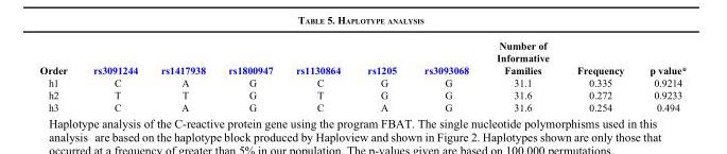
<table><thead><tr><td>Order</td><td>rs3091244</td><td>rs1417938</td><td>rs1800947</td><td>rs1130864</td><td>rs1205</td><td>rs3093068</td><td>Number of Informative Families</td><td>Frequency</td><td>p value*</td></tr></thead><tbody><tr><td>h1</td><td>C</td><td>A</td><td>G</td><td>C</td><td>G</td><td>G</td><td>31.1</td><td>0.335</td><td>0.9214</td></tr><tr><td>h2</td><td>T</td><td>T</td><td>G</td><td>T</td><td>G</td><td>G</td><td>31.6</td><td>0.272</td><td>0.9233</td></tr><tr><td>h3</td><td>C</td><td>A</td><td>G</td><td>C</td><td>A</td><td>G</td><td>31.6</td><td>0.254</td><td>0.494</td></tr></tbody></table>